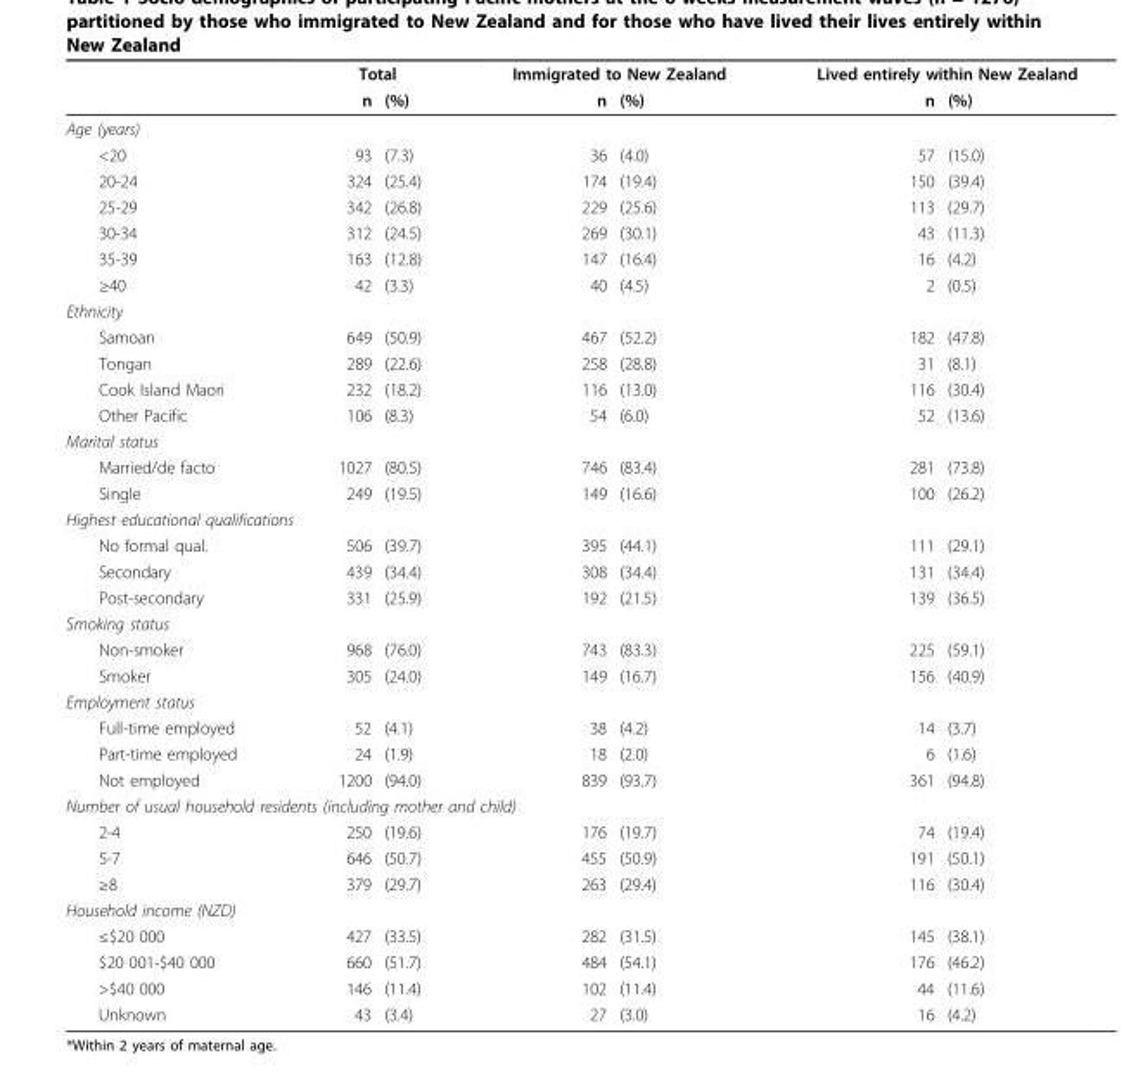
<table><thead><tr><td rowspan="2"></td><td colspan="2">Total</td><td colspan="2">Immigrated to New Zealand</td><td colspan="2">Lived entirely within New Zealand</td></tr><tr><td>n</td><td>(%)</td><td>n</td><td>(%)</td><td>n</td><td>(%)</td></tr></thead><tbody><tr><td colspan="7">Age (years)</td></tr><tr><td>&lt;20</td><td>93</td><td>(7.3)</td><td>36</td><td>(4.0)</td><td>57</td><td>(15.0)</td></tr><tr><td>20-24</td><td>324</td><td>(25.4)</td><td>174</td><td>(19.4)</td><td>150</td><td>(39.4)</td></tr><tr><td>25-29</td><td>342</td><td>(26.8)</td><td>229</td><td>(25.6)</td><td>113</td><td>(29.7)</td></tr><tr><td>30-34</td><td>312</td><td>(24.5)</td><td>269</td><td>(30.1)</td><td>43</td><td>(11.3)</td></tr><tr><td>35-39</td><td>163</td><td>(12.8)</td><td>147</td><td>(16.4)</td><td>16</td><td>(4.2)</td></tr><tr><td>≥40</td><td>42</td><td>(3.3)</td><td>40</td><td>(4.5)</td><td>2</td><td>(0.5)</td></tr><tr><td colspan="7">Ethnicity</td></tr><tr><td>Samoan</td><td>649</td><td>(50.9)</td><td>467</td><td>(52.2)</td><td>182</td><td>(47.8)</td></tr><tr><td>Tongan</td><td>289</td><td>(22.6)</td><td>258</td><td>(28.8)</td><td>31</td><td>(8.1)</td></tr><tr><td>Cook Island Maori</td><td>232</td><td>(18.2)</td><td>116</td><td>(13.0)</td><td>116</td><td>(30.4)</td></tr><tr><td>Other Pacific</td><td>106</td><td>(8.3)</td><td>54</td><td>(6.0)</td><td>52</td><td>(13.6)</td></tr><tr><td colspan="7">Marital status</td></tr><tr><td>Married/de facto</td><td>1027</td><td>(80.5)</td><td>746</td><td>(83.4)</td><td>281</td><td>(73.8)</td></tr><tr><td>Single</td><td>249</td><td>(19.5)</td><td>149</td><td>(16.6)</td><td>100</td><td>(26.2)</td></tr><tr><td colspan="7">Highest educational qualifications</td></tr><tr><td>No formal qual.</td><td>506</td><td>(39.7)</td><td>395</td><td>(44.1)</td><td>111</td><td>(29.1)</td></tr><tr><td>Secondary</td><td>439</td><td>(34.4)</td><td>308</td><td>(34.4)</td><td>131</td><td>(34.4)</td></tr><tr><td>Post-secondary</td><td>331</td><td>(25.9)</td><td>192</td><td>(21.5)</td><td>139</td><td>(36.5)</td></tr><tr><td colspan="7">Smoking status</td></tr><tr><td>Non-smoker</td><td>968</td><td>(76.0)</td><td>743</td><td>(83.3)</td><td>225</td><td>(59.1)</td></tr><tr><td>Smoker</td><td>305</td><td>(24.0)</td><td>149</td><td>(16.7)</td><td>156</td><td>(40.9)</td></tr><tr><td colspan="7">Employment status</td></tr><tr><td>Full-time employed</td><td>52</td><td>(4.1)</td><td>38</td><td>(4.2)</td><td>14</td><td>(3.7)</td></tr><tr><td>Part-time employed</td><td>24</td><td>(1.9)</td><td>18</td><td>(2.0)</td><td>6</td><td>(1.6)</td></tr><tr><td>Not employed</td><td>1200</td><td>(94.0)</td><td>839</td><td>(93.7)</td><td>361</td><td>(94.8)</td></tr><tr><td colspan="7">Number of usual household residents (including mother and child)</td></tr><tr><td>2-4</td><td>250</td><td>(19.6)</td><td>176</td><td>(19.7)</td><td>74</td><td>(19.4)</td></tr><tr><td>5-7</td><td>646</td><td>(50.7)</td><td>455</td><td>(50.9)</td><td>191</td><td>(50.1)</td></tr><tr><td>≥8</td><td>379</td><td>(29.7)</td><td>263</td><td>(29.4)</td><td>116</td><td>(30.4)</td></tr><tr><td colspan="7">Household income (NZD)</td></tr><tr><td>≤$20 000</td><td>427</td><td>(33.5)</td><td>282</td><td>(31.5)</td><td>145</td><td>(38.1)</td></tr><tr><td>$20 001-$40 000</td><td>660</td><td>(51.7)</td><td>484</td><td>(54.1)</td><td>176</td><td>(46.2)</td></tr><tr><td>&gt;$40 000</td><td>146</td><td>(11.4)</td><td>102</td><td>(11.4)</td><td>44</td><td>(11.6)</td></tr><tr><td>Unknown</td><td>43</td><td>(3.4)</td><td>27</td><td>(3.0)</td><td>16</td><td>(4.2)</td></tr></tbody></table>